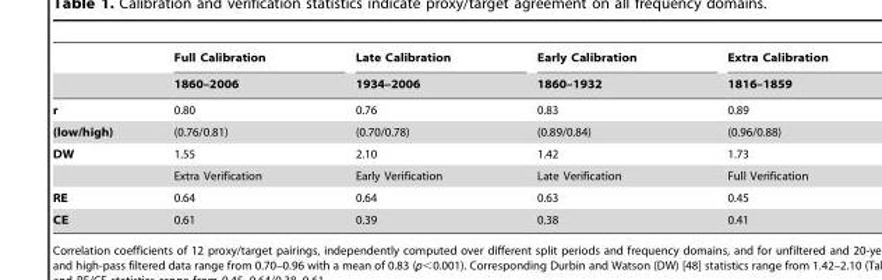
<table><thead><tr><td rowspan="2"></td><td rowspan="2">Full Calibration 1860–2006</td><td rowspan="2">Late Calibration 1934–2006</td><td rowspan="2">Early Calibration 1860–1932</td><td rowspan="2">Extra Calibration 1816–1859</td></tr><tr></tr></thead><tbody><tr><td>r</td><td>0.80</td><td>0.76</td><td>0.83</td><td>0.89</td></tr><tr><td>(low/high)</td><td>(0.76/0.81)</td><td>(0.70/0.78)</td><td>(0.89/0.84)</td><td>(0.96/0.88)</td></tr><tr><td rowspan="2">DW</td><td>1.55</td><td>2.10</td><td>1.42</td><td>1.73</td></tr><tr><td>Extra Verification</td><td>Early Verification</td><td>Late Verification</td><td>Full Verification</td></tr><tr><td>RE</td><td>0.64</td><td>0.64</td><td>0.63</td><td>0.45</td></tr><tr><td>CE</td><td>0.61</td><td>0.39</td><td>0.38</td><td>0.41</td></tr></tbody></table>